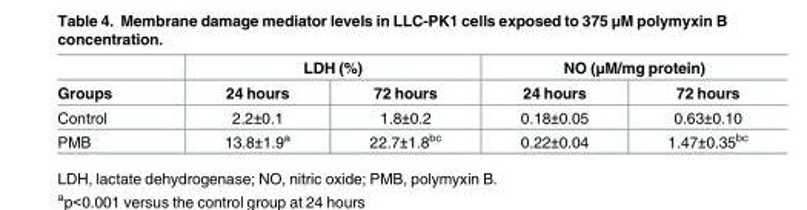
<table><thead><tr><td rowspan="2">Groups</td><td colspan="2">LDH (%)</td><td colspan="2">NO (μM/mg protein)</td></tr><tr><td>24 hours</td><td>72 hours</td><td>24 hours</td><td>72 hours</td></tr></thead><tbody><tr><td>Control</td><td>2.2±0.1</td><td>1.8±0.2</td><td>0.18±0.05</td><td>0.63±0.10</td></tr><tr><td>PMB</td><td>13.8±1.9<sup>a</sup></td><td>22.7±1.8<sup>bc</sup></td><td>0.22±0.04</td><td>1.47±0.35<sup>bc</sup></td></tr></tbody></table>